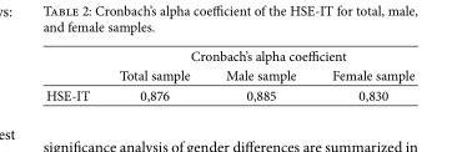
<table><thead><tr><td rowspan="2"></td><td colspan="3">Cronbach’s alpha coefficient</td></tr><tr><td>Total sample</td><td>Male sample</td><td>Female sample</td></tr></thead><tbody><tr><td>HSE-IT</td><td>0,876</td><td>0,885</td><td>0,830</td></tr></tbody></table>